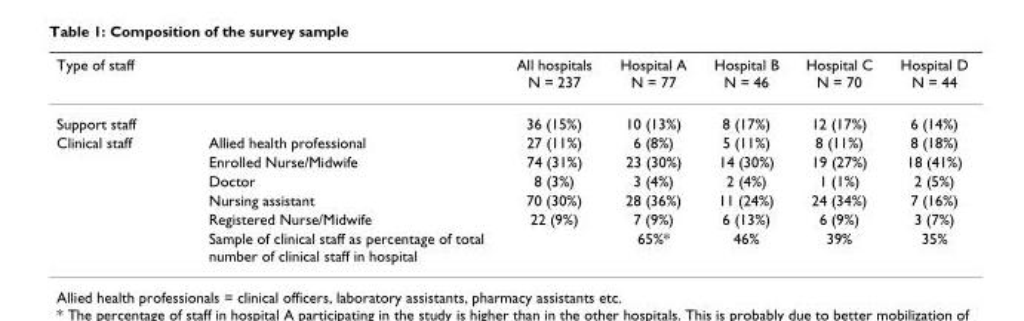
<table><thead><tr><td>Type of staff</td><td></td><td>All hospitals N = 237</td><td>Hospital A N = 77</td><td>Hospital B N = 46</td><td>Hospital C N = 70</td><td>Hospital D N = 44</td></tr></thead><tbody><tr><td>Support staff</td><td></td><td>36 (15%)</td><td>10 (13%)</td><td>8 (17%)</td><td>12 (17%)</td><td>6 (14%)</td></tr><tr><td rowspan="6">Clinical staff</td><td>Allied health professional</td><td>27 (11%)</td><td>6 (8%)</td><td>5 (11%)</td><td>8 (11%)</td><td>8 (18%)</td></tr><tr><td>Enrolled Nurse/Midwife</td><td>74 (31%)</td><td>23 (30%)</td><td>14 (30%)</td><td>19 (27%)</td><td>18 (41%)</td></tr><tr><td>Doctor</td><td>8 (3%)</td><td>3 (4%)</td><td>2 (4%)</td><td>1 (1%)</td><td>2 (5%)</td></tr><tr><td>Nursing assistant</td><td>70 (30%)</td><td>28 (36%)</td><td>11 (24%)</td><td>24 (34%)</td><td>7 (16%)</td></tr><tr><td>Registered Nurse/Midwife</td><td>22 (9%)</td><td>7 (9%)</td><td>6 (13%)</td><td>6 (9%)</td><td>3 (7%)</td></tr><tr><td>Sample of clinical staff as percentage of total number of clinical staff in hospital</td><td></td><td>65%*</td><td>46%</td><td>39%</td><td>35%</td></tr></tbody></table>